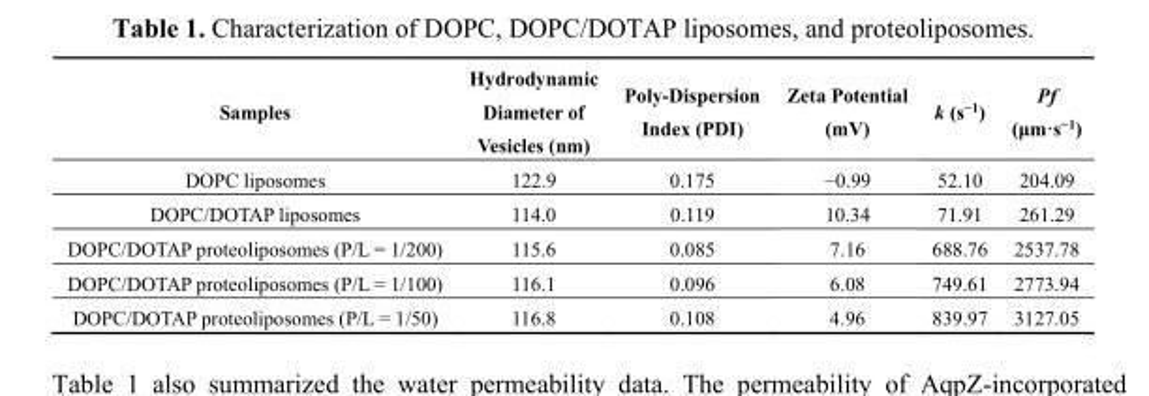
<table><thead><tr><td>Samples</td><td>Hydrodynamic Diameter of Vesicles (nm)</td><td>Poly-Dispersion Index (PDI)</td><td>Zeta Potential (mV)</td><td>k (s<sup>−1</sup>)</td><td>Pf (μm·s<sup>−1</sup>)</td></tr></thead><tbody><tr><td>DOPC liposomes</td><td>122.9</td><td>0.175</td><td>−0.99</td><td>52.10</td><td>204.09</td></tr><tr><td>DOPC/DOTAP liposomes</td><td>114.0</td><td>0.119</td><td>10.34</td><td>71.91</td><td>261.29</td></tr><tr><td>DOPC/DOTAP proteoliposomes (P/L = 1/200)</td><td>115.6</td><td>0.085</td><td>7.16</td><td>688.76</td><td>2537.78</td></tr><tr><td>DOPC/DOTAP proteoliposomes (P/L = 1/100)</td><td>116.1</td><td>0.096</td><td>6.08</td><td>749.61</td><td>2773.94</td></tr><tr><td>DOPC/DOTAP proteoliposomes (P/L = 1/50)</td><td>116.8</td><td>0.108</td><td>4.96</td><td>839.97</td><td>3127.05</td></tr></tbody></table>